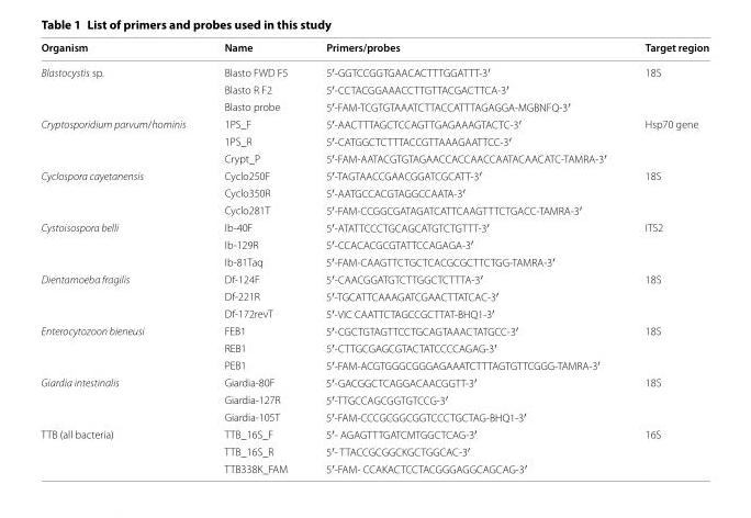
<table><thead><tr><td>Organism</td><td>Name</td><td>Primers/probes</td><td>Target region</td></tr></thead><tbody><tr><td rowspan="3">Blastocystis sp.</td><td>Blasto FWD F5</td><td>5′-GGT CCG GTG AAC ACT TTG GATTT-3′</td><td>18S</td></tr><tr><td>Blasto R F2</td><td>5′-CCT ACG GAA ACC TTG TTA CGA CTT CA-3′</td><td></td></tr><tr><td>Blasto probe</td><td>5′-FAM-TCG TGT AAA TCT TAC CAT TTA GAG GA-MGBNFQ-3′</td><td></td></tr><tr><td rowspan="3">Cryptosporidium parvum/hominis</td><td>1PS_F</td><td>5′-AAC TTT AGC TCC AGT TGA GAA AGT ACTC-3′</td><td>Hsp70 gene</td></tr><tr><td>1PS_R</td><td>5′-CAT GGC TCT TTA CCG TTA AAG AAT TCC-3′</td><td></td></tr><tr><td>Crypt_P</td><td>5′-FAM-AAT ACG TGT AGA ACC ACC AAC CAA TAC AAC ATC-TAMRA-3′</td><td></td></tr><tr><td rowspan="3">Cyclospora cayetanensis</td><td>Cyclo250F</td><td>5′-TAG TAA CCG AAC GGA TCG CATT-3′</td><td>18S</td></tr><tr><td>Cyclo350R</td><td>5′-AAT GCC ACG TAG GCC AAT A-3′</td><td></td></tr><tr><td>Cyclo281T</td><td>5′-FAM-CCG GCG ATA GAT CAT TCA AGT TTC TGACC-TAMRA-3′</td><td></td></tr><tr><td rowspan="3">Cystoisospora belli</td><td>Ib-40F</td><td>5′-ATA TTC CCT GCA GCA TGT CTG TTT -3′</td><td>ITS2</td></tr><tr><td>Ib-129R</td><td>5′-CCA CAC GCG TAT TCC AGA GA-3′</td><td></td></tr><tr><td>Ib-81Taq</td><td>5′-FAM-CAA GTT CTG CTC ACG CGC TTC TGG -TAMRA-3′</td><td></td></tr><tr><td rowspan="3">Dientamoeba fragilis</td><td>Df-124F</td><td>5′-CAA CGG ATG TCT TGG CTC TTTA-3′</td><td>18S</td></tr><tr><td>Df-221R</td><td>5′-TGC ATT CAA AGA TCG AAC TTA TCA C-3′</td><td></td></tr><tr><td>Df-172revT</td><td>5′-VIC CAA TTC TAG CCG CTTAT-BHQ1-3′</td><td></td></tr><tr><td rowspan="3">Enterocytozoon bieneusi</td><td>FEB1</td><td>5′-CGC TGT AGT TCC TGC AGT AAA CTA TGCC-3′</td><td>18S</td></tr><tr><td>REB1</td><td>5′-CTT GCG AGC GTA CTA TCC CCA GAG -3′</td><td></td></tr><tr><td>PEB1</td><td>5′-FAM-ACG TGG GCG GGA GAA ATC TTT AGT GTT CGG G-TAMRA-3′</td><td></td></tr><tr><td rowspan="3">Giardia intestinalis</td><td>Giardia-80F</td><td>5′-GAC GGC TCA GGA CAA CGG TT-3′</td><td>18S</td></tr><tr><td>Giardia-127R</td><td>5′-TTG CCA GCG GTG TCCG-3′</td><td></td></tr><tr><td>Giardia-105T</td><td>5′-FAM-CCC GCG GCG GTC CCT GCT AG-BHQ1-3′</td><td></td></tr><tr><td rowspan="3">TTB (all bacteria)</td><td>TTB_16S_F</td><td>5′- AGA GTT TGATCMTGG CTC AG-3′</td><td>16S</td></tr><tr><td>TTB_16S_R</td><td>5′- TTA CCG CGGCKGCT GGC AC-3′</td><td></td></tr><tr><td>TTB338K_FAM</td><td>5′-FAM- CCAKACT CCT ACG GGA GGC AGC AG-3′</td><td></td></tr></tbody></table>